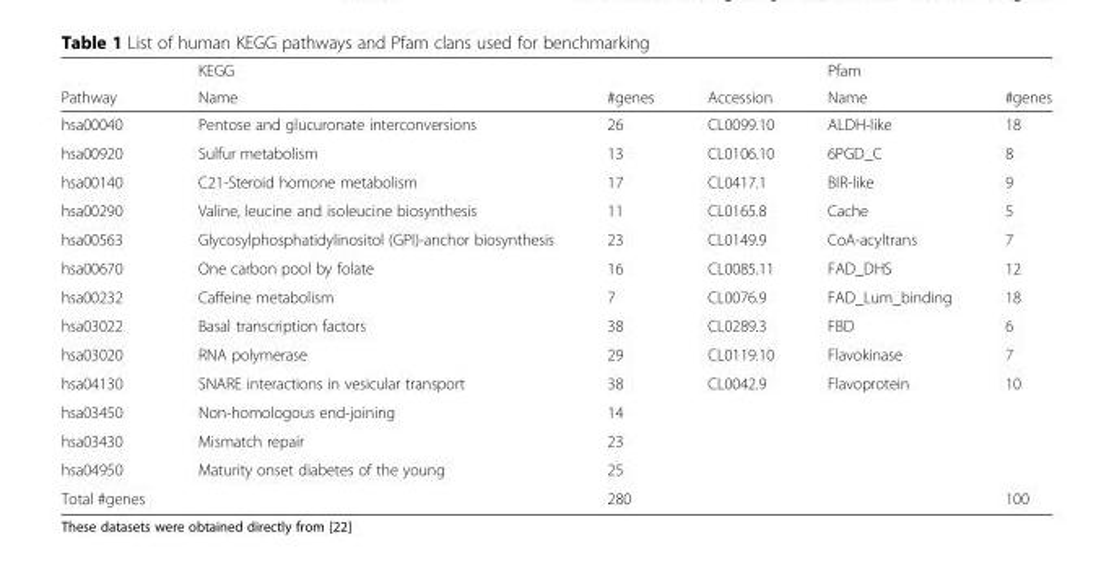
<table><thead><tr><td rowspan="2">Pathway</td><td rowspan="2">KEGG Name</td><td rowspan="2">#genes</td><td rowspan="2">Accession</td><td rowspan="2">Pfam Name</td><td rowspan="2">#genes</td></tr><tr></tr></thead><tbody><tr><td>hsa00040</td><td>Pentose and glucuronate interconversions</td><td>26</td><td>CL0099.10</td><td>ALDH-like</td><td>18</td></tr><tr><td>hsa00920</td><td>Sulfur metabolism</td><td>13</td><td>CL0106.10</td><td>6PGD_C</td><td>8</td></tr><tr><td>hsa00140</td><td>C21-Steroid homone metabolism</td><td>17</td><td>CL0417.1</td><td>BIR-like</td><td>9</td></tr><tr><td>hsa00290</td><td>Valine, leucine and isoleucine biosynthesis</td><td>11</td><td>CL0165.8</td><td>Cache</td><td>5</td></tr><tr><td>hsa00563</td><td>Glycosylphosphatidylinositol (GPI)-anchor biosynthesis</td><td>23</td><td>CL0149.9</td><td>CoA-acyltrans</td><td>7</td></tr><tr><td>hsa00670</td><td>One carbon pool by folate</td><td>16</td><td>CL0085.11</td><td>FAD_DHS</td><td>12</td></tr><tr><td>hsa00232</td><td>Caffeine metabolism</td><td>7</td><td>CL0076.9</td><td>FAD_Lum_binding</td><td>18</td></tr><tr><td>hsa03022</td><td>Basal transcription factors</td><td>38</td><td>CL0289.3</td><td>FBD</td><td>6</td></tr><tr><td>hsa03020</td><td>RNA polymerase</td><td>29</td><td>CL0119.10</td><td>Flavokinase</td><td>7</td></tr><tr><td>hsa04130</td><td>SNARE interactions in vesicular transport</td><td>38</td><td>CL0042.9</td><td>Flavoprotein</td><td>10</td></tr><tr><td>hsa03450</td><td>Non-homologous end-joining</td><td>14</td><td></td><td></td><td></td></tr><tr><td>hsa03430</td><td>Mismatch repair</td><td>23</td><td></td><td></td><td></td></tr><tr><td>hsa04950</td><td>Maturity onset diabetes of the young</td><td>25</td><td></td><td></td><td></td></tr><tr><td>Total #genes</td><td></td><td>280</td><td></td><td></td><td>100</td></tr></tbody></table>